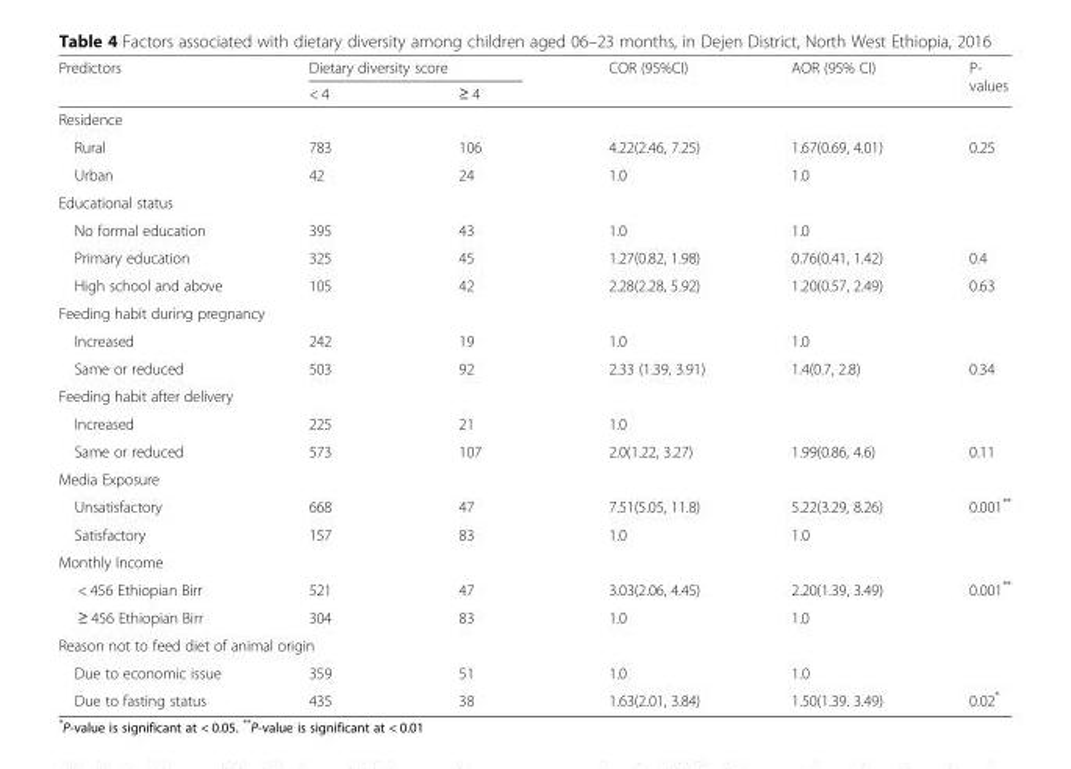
<table><thead><tr><td rowspan="2">Predictors</td><td colspan="2">Dietary diversity score</td><td rowspan="2">COR (95%CI)</td><td rowspan="2">AOR (95% CI)</td><td rowspan="2">P- values</td></tr><tr><td>&lt; 4</td><td>≥ 4</td></tr></thead><tbody><tr><td colspan="6">Residence</td></tr><tr><td>Rural</td><td>783</td><td>106</td><td>4.22(2.46, 7.25)</td><td>1.67(0.69, 4.01)</td><td>0.25</td></tr><tr><td>Urban</td><td>42</td><td>24</td><td>1.0</td><td>1.0</td><td></td></tr><tr><td colspan="6">Educational status</td></tr><tr><td>No formal education</td><td>395</td><td>43</td><td>1.0</td><td>1.0</td><td></td></tr><tr><td>Primary education</td><td>325</td><td>45</td><td>1.27(0.82, 1.98)</td><td>0.76(0.41, 1.42)</td><td>0.4</td></tr><tr><td>High school and above</td><td>105</td><td>42</td><td>2.28(2.28, 5.92)</td><td>1.20(0.57, 2.49)</td><td>0.63</td></tr><tr><td colspan="6">Feeding habit during pregnancy</td></tr><tr><td>Increased</td><td>242</td><td>19</td><td>1.0</td><td>1.0</td><td></td></tr><tr><td>Same or reduced</td><td>503</td><td>92</td><td>2.33 (1.39, 3.91)</td><td>1.4(0.7, 2.8)</td><td>0.34</td></tr><tr><td colspan="6">Feeding habit after delivery</td></tr><tr><td>Increased</td><td>225</td><td>21</td><td>1.0</td><td></td><td></td></tr><tr><td>Same or reduced</td><td>573</td><td>107</td><td>2.0(1.22, 3.27)</td><td>1.99(0.86, 4.6)</td><td>0.11</td></tr><tr><td colspan="6">Media Exposure</td></tr><tr><td>Unsatisfactory</td><td>668</td><td>47</td><td>7.51(5.05, 11.8)</td><td>5.22(3.29, 8.26)</td><td>0.001**</td></tr><tr><td>Satisfactory</td><td>157</td><td>83</td><td>1.0</td><td>1.0</td><td></td></tr><tr><td colspan="6">Monthly Income</td></tr><tr><td>&lt; 456 Ethiopian Birr</td><td>521</td><td>47</td><td>3.03(2.06, 4.45)</td><td>2.20(1.39, 3.49)</td><td>0.001**</td></tr><tr><td>≥ 456 Ethiopian Birr</td><td>304</td><td>83</td><td>1.0</td><td>1.0</td><td></td></tr><tr><td colspan="6">Reason not to feed diet of animal origin</td></tr><tr><td>Due to economic issue</td><td>359</td><td>51</td><td>1.0</td><td>1.0</td><td></td></tr><tr><td>Due to fasting status</td><td>435</td><td>38</td><td>1.63(2.01, 3.84)</td><td>1.50(1.39. 3.49)</td><td>0.02*</td></tr></tbody></table>